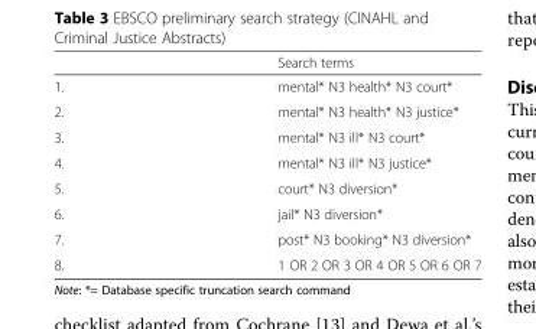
<table><thead><tr><td></td><td>Search terms</td></tr></thead><tbody><tr><td>1.</td><td>mental* N3 health* N3 court*</td></tr><tr><td>2.</td><td>mental* N3 health* N3 justice*</td></tr><tr><td>3.</td><td>mental* N3 ill* N3 court*</td></tr><tr><td>4.</td><td>mental* N3 ill* N3 justice*</td></tr><tr><td>5.</td><td>court* N3 diversion*</td></tr><tr><td>6.</td><td>jail* N3 diversion*</td></tr><tr><td>7.</td><td>post* N3 booking* N3 diversion*</td></tr><tr><td>8.</td><td>1 OR 2 OR 3 OR 4 OR 5 OR 6 OR 7</td></tr></tbody></table>